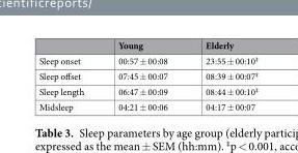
<table><thead><tr><td></td><td>Young</td><td>Elderly</td></tr></thead><tbody><tr><td>Sleep onset</td><td>00:57 ± 00:08</td><td>23:55 ± 00:10<sup>‡</sup></td></tr><tr><td>Sleep offset</td><td>07:45 ± 00:07</td><td>08:39 ± 00:07<sup>‡</sup></td></tr><tr><td>Sleep length</td><td>06:47 ± 00:09</td><td>08:44 ± 00:10<sup>‡</sup></td></tr><tr><td>Midsleep</td><td>04:21 ± 00:06</td><td>04:17 ± 00:07</td></tr></tbody></table>